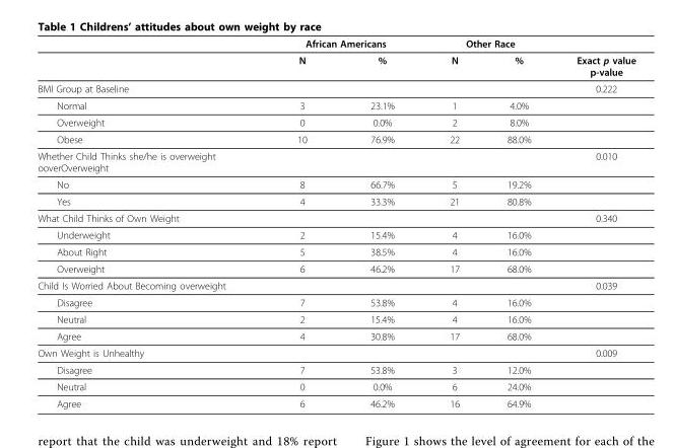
<table><thead><tr><td rowspan="2"></td><td colspan="2">African Americans</td><td colspan="2">Other Race</td><td rowspan="2">Exact p value p-value</td></tr><tr><td>N</td><td>%</td><td>N</td><td>%</td></tr></thead><tbody><tr><td>BMI Group at Baseline</td><td></td><td></td><td></td><td></td><td>0.222</td></tr><tr><td>Normal</td><td>3</td><td>23.1%</td><td>1</td><td>4.0%</td><td></td></tr><tr><td>Overweight</td><td>0</td><td>0.0%</td><td>2</td><td>8.0%</td><td></td></tr><tr><td>Obese</td><td>10</td><td>76.9%</td><td>22</td><td>88.0%</td><td></td></tr><tr><td>Whether Child Thinks she/he is overweight ooverOverweight</td><td></td><td></td><td></td><td></td><td>0.010</td></tr><tr><td>No</td><td>8</td><td>66.7%</td><td>5</td><td>19.2%</td><td></td></tr><tr><td>Yes</td><td>4</td><td>33.3%</td><td>21</td><td>80.8%</td><td></td></tr><tr><td>What Child Thinks of Own Weight</td><td></td><td></td><td></td><td></td><td>0.340</td></tr><tr><td>Underweight</td><td>2</td><td>15.4%</td><td>4</td><td>16.0%</td><td></td></tr><tr><td>About Right</td><td>5</td><td>38.5%</td><td>4</td><td>16.0%</td><td></td></tr><tr><td>Overweight</td><td>6</td><td>46.2%</td><td>17</td><td>68.0%</td><td></td></tr><tr><td>Child Is Worried About Becoming overweight</td><td></td><td></td><td></td><td></td><td>0.039</td></tr><tr><td>Disagree</td><td>7</td><td>53.8%</td><td>4</td><td>16.0%</td><td></td></tr><tr><td>Neutral</td><td>2</td><td>15.4%</td><td>4</td><td>16.0%</td><td></td></tr><tr><td>Agree</td><td>4</td><td>30.8%</td><td>17</td><td>68.0%</td><td></td></tr><tr><td>Own Weight is Unhealthy</td><td></td><td></td><td></td><td></td><td>0.009</td></tr><tr><td>Disagree</td><td>7</td><td>53.8%</td><td>3</td><td>12.0%</td><td></td></tr><tr><td>Neutral</td><td>0</td><td>0.0%</td><td>6</td><td>24.0%</td><td></td></tr><tr><td>Agree</td><td>6</td><td>46.2%</td><td>16</td><td>64.9%</td><td></td></tr></tbody></table>